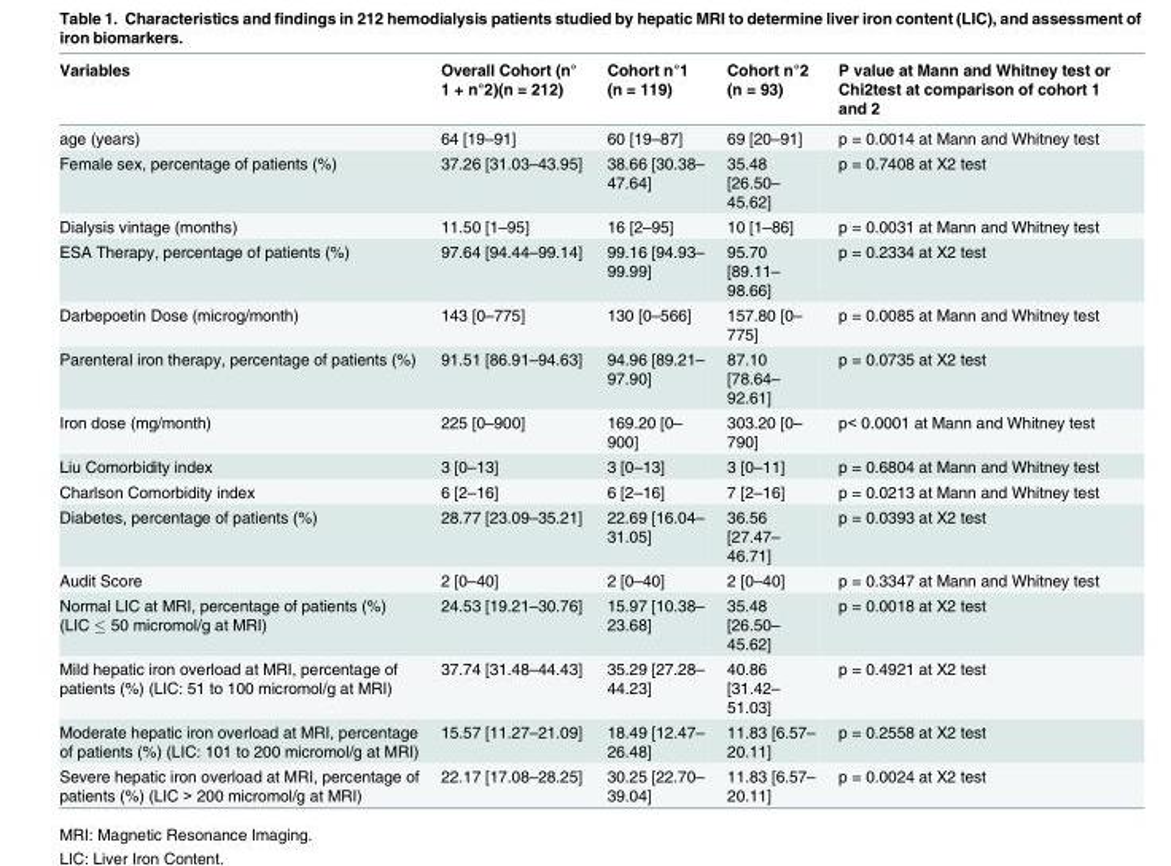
<table><thead><tr><td>Variables</td><td>Overall Cohort (n° 1 + n°2)(n = 212)</td><td>Cohort n°1 (n = 119)</td><td>Cohort n°2 (n = 93)</td><td>P value at Mann and Whitney test or Chi2test at comparison of cohort 1 and 2</td></tr></thead><tbody><tr><td>age (years)</td><td>64 [19–91]</td><td>60 [19–87]</td><td>69 [20–91]</td><td>p = 0.0014 at Mann and Whitney test</td></tr><tr><td>Female sex, percentage of patients (%)</td><td>37.26 [31.03–43.95]</td><td>38.66 [30.38– 47.64]</td><td>35.48 [26.50– 45.62]</td><td>p = 0.7408 at X2 test</td></tr><tr><td>Dialysis vintage (months)</td><td>11.50 [1–95]</td><td>16 [2–95]</td><td>10 [1–86]</td><td>p = 0.0031 at Mann and Whitney test</td></tr><tr><td>ESA Therapy, percentage of patients (%)</td><td>97.64 [94.44–99.14]</td><td>99.16 [94.93– 99.99]</td><td>95.70 [89.11– 98.66]</td><td>p = 0.2334 at X2 test</td></tr><tr><td>Darbepoetin Dose (microg/month)</td><td>143 [0–775]</td><td>130 [0–566]</td><td>157.80 [0– 775]</td><td>p = 0.0085 at Mann and Whitney test</td></tr><tr><td>Parenteral iron therapy, percentage of patients (%)</td><td>91.51 [86.91–94.63]</td><td>94.96 [89.21– 97.90]</td><td>87.10 [78.64– 92.61]</td><td>p = 0.0735 at X2 test</td></tr><tr><td>Iron dose (mg/month)</td><td>225 [0–900]</td><td>169.20 [0– 900]</td><td>303.20 [0– 790]</td><td>p&lt; 0.0001 at Mann and Whitney test</td></tr><tr><td>Liu Comorbidity index</td><td>3 [0–13]</td><td>3 [0–13]</td><td>3 [0–11]</td><td>p = 0.6804 at Mann and Whitney test</td></tr><tr><td>Charlson Comorbidity index</td><td>6 [2–16]</td><td>6 [2–16]</td><td>7 [2–16]</td><td>p = 0.0213 at Mann and Whitney test</td></tr><tr><td>Diabetes, percentage of patients (%)</td><td>28.77 [23.09–35.21]</td><td>22.69 [16.04– 31.05]</td><td>36.56 [27.47– 46.71]</td><td>p = 0.0393 at X2 test</td></tr><tr><td>Audit Score</td><td>2 [0–40]</td><td>2 [0–40]</td><td>2 [0–40]</td><td>p = 0.3347 at Mann and Whitney test</td></tr><tr><td>Normal LIC at MRI, percentage of patients (%) (LIC ≤ 50 micromol/g at MRI)</td><td>24.53 [19.21–30.76]</td><td>15.97 [10.38– 23.68]</td><td>35.48 [26.50– 45.62]</td><td>p = 0.0018 at X2 test</td></tr><tr><td>Mild hepatic iron overload at MRI, percentage of patients (%) (LIC: 51 to 100 micromol/g at MRI)</td><td>37.74 [31.48–44.43]</td><td>35.29 [27.28– 44.23]</td><td>40.86 [31.42– 51.03]</td><td>p = 0.4921 at X2 test</td></tr><tr><td>Moderate hepatic iron overload at MRI, percentage of patients (%) (LIC: 101 to 200 micromol/g at MRI)</td><td>15.57 [11.27–21.09]</td><td>18.49 [12.47– 26.48]</td><td>11.83 [6.57– 20.11]</td><td>p = 0.2558 at X2 test</td></tr><tr><td>Severe hepatic iron overload at MRI, percentage of patients (%) (LIC &gt; 200 micromol/g at MRI)</td><td>22.17 [17.08–28.25]</td><td>30.25 [22.70– 39.04]</td><td>11.83 [6.57– 20.11]</td><td>p = 0.0024 at X2 test</td></tr></tbody></table>